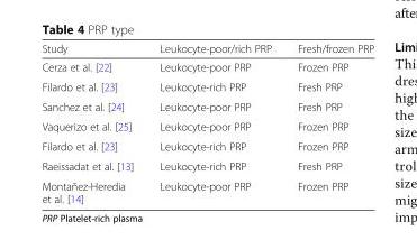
<table><thead><tr><td>Study</td><td>Leukocyte-poor/rich PRP</td><td>Fresh/frozen PRP</td></tr></thead><tbody><tr><td>Cerza et al. [22]</td><td>Leukocyte-poor PRP</td><td>Frozen PRP</td></tr><tr><td>Filardo et al. [23]</td><td>Leukocyte-rich PRP</td><td>Fresh PRP</td></tr><tr><td>Sanchez et al. [24]</td><td>Leukocyte-poor PRP</td><td>Fresh PRP</td></tr><tr><td>Vaquerizo et al. [25]</td><td>Leukocyte-poor PRP</td><td>Frozen PRP</td></tr><tr><td>Filardo et al. [23]</td><td>Leukocyte-rich PRP</td><td>Frozen PRP</td></tr><tr><td>Raeissadat et al. [13]</td><td>Leukocyte-rich PRP</td><td>Fresh PRP</td></tr><tr><td>Montañez-Heredia et al. [14]</td><td>Leukocyte-poor PRP</td><td>Frozen PRP</td></tr></tbody></table>